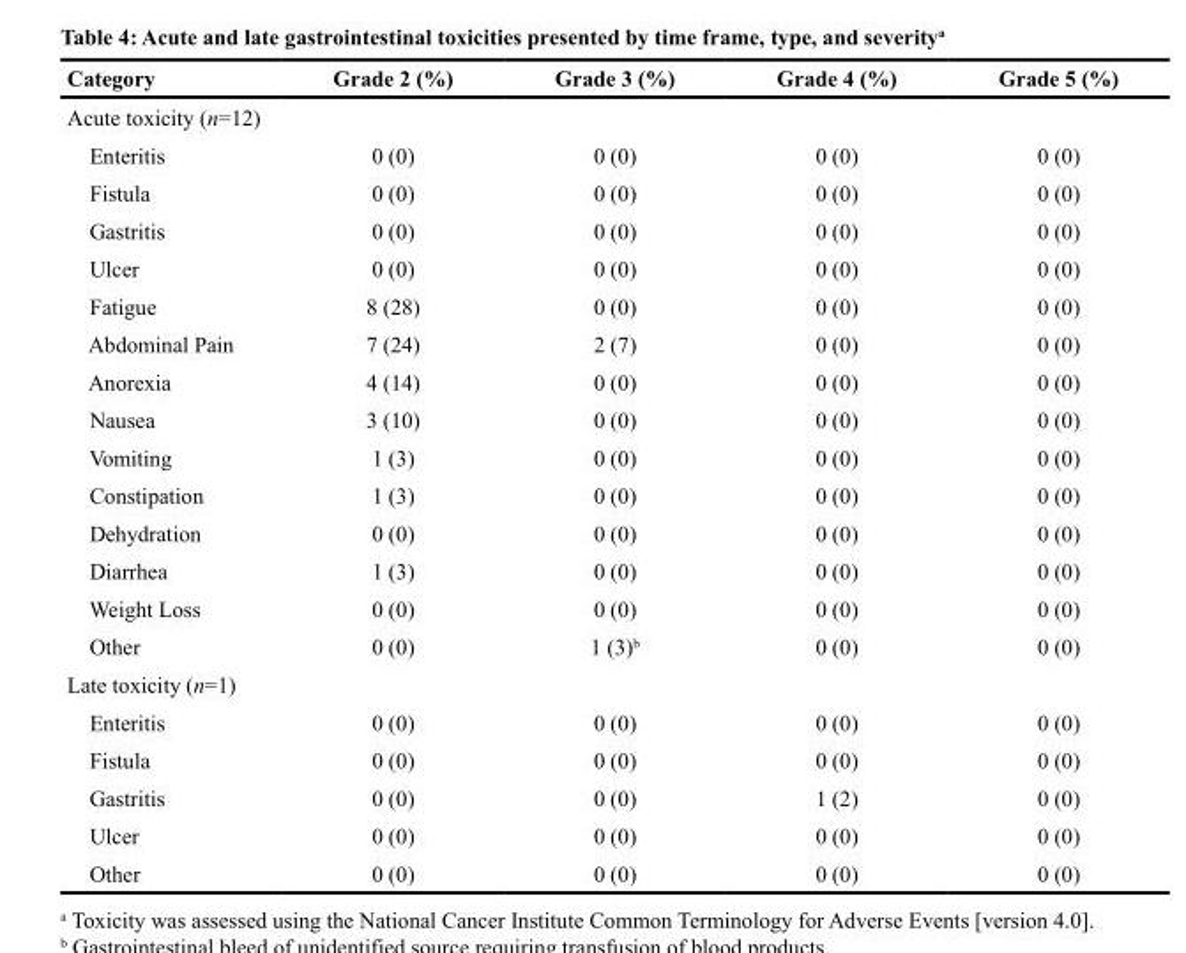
<table><thead><tr><td>Category</td><td>Grade 2 (%)</td><td>Grade 3 (%)</td><td>Grade 4 (%)</td><td>Grade 5 (%)</td></tr></thead><tbody><tr><td colspan="5">Acute toxicity (n=12)</td></tr><tr><td>Enteritis</td><td>0 (0)</td><td>0 (0)</td><td>0 (0)</td><td>0 (0)</td></tr><tr><td>Fistula</td><td>0 (0)</td><td>0 (0)</td><td>0 (0)</td><td>0 (0)</td></tr><tr><td>Gastritis</td><td>0 (0)</td><td>0 (0)</td><td>0 (0)</td><td>0 (0)</td></tr><tr><td>Ulcer</td><td>0 (0)</td><td>0 (0)</td><td>0 (0)</td><td>0 (0)</td></tr><tr><td>Fatigue</td><td>8 (28)</td><td>0 (0)</td><td>0 (0)</td><td>0 (0)</td></tr><tr><td>Abdominal Pain</td><td>7 (24)</td><td>2 (7)</td><td>0 (0)</td><td>0 (0)</td></tr><tr><td>Anorexia</td><td>4 (14)</td><td>0 (0)</td><td>0 (0)</td><td>0 (0)</td></tr><tr><td>Nausea</td><td>3 (10)</td><td>0 (0)</td><td>0 (0)</td><td>0 (0)</td></tr><tr><td>Vomiting</td><td>1 (3)</td><td>0 (0)</td><td>0 (0)</td><td>0 (0)</td></tr><tr><td>Constipation</td><td>1 (3)</td><td>0 (0)</td><td>0 (0)</td><td>0 (0)</td></tr><tr><td>Dehydration</td><td>0 (0)</td><td>0 (0)</td><td>0 (0)</td><td>0 (0)</td></tr><tr><td>Diarrhea</td><td>1 (3)</td><td>0 (0)</td><td>0 (0)</td><td>0 (0)</td></tr><tr><td>Weight Loss</td><td>0 (0)</td><td>0 (0)</td><td>0 (0)</td><td>0 (0)</td></tr><tr><td>Other</td><td>0 (0)</td><td>1 (3)<sup>b</sup></td><td>0 (0)</td><td>0 (0)</td></tr><tr><td colspan="5">Late toxicity (n=1)</td></tr><tr><td>Enteritis</td><td>0 (0)</td><td>0 (0)</td><td>0 (0)</td><td>0 (0)</td></tr><tr><td>Fistula</td><td>0 (0)</td><td>0 (0)</td><td>0 (0)</td><td>0 (0)</td></tr><tr><td>Gastritis</td><td>0 (0)</td><td>0 (0)</td><td>1 (2)</td><td>0 (0)</td></tr><tr><td>Ulcer</td><td>0 (0)</td><td>0 (0)</td><td>0 (0)</td><td>0 (0)</td></tr><tr><td>Other</td><td>0 (0)</td><td>0 (0)</td><td>0 (0)</td><td>0 (0)</td></tr></tbody></table>